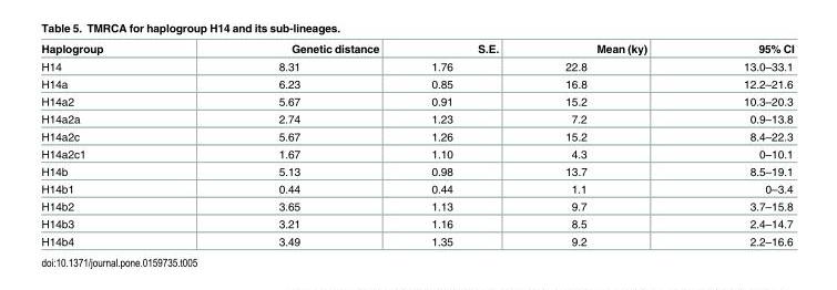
<table><thead><tr><td>Haplogroup</td><td>Genetic distance</td><td>S.E.</td><td>Mean (ky)</td><td>95% CI</td></tr></thead><tbody><tr><td>H14</td><td>8.31</td><td>1.76</td><td>22.8</td><td>13.0–33.1</td></tr><tr><td>H14a</td><td>6.23</td><td>0.85</td><td>16.8</td><td>12.2–21.6</td></tr><tr><td>H14a2</td><td>5.67</td><td>0.91</td><td>15.2</td><td>10.3–20.3</td></tr><tr><td>H14a2a</td><td>2.74</td><td>1.23</td><td>7.2</td><td>0.9–13.8</td></tr><tr><td>H14a2c</td><td>5.67</td><td>1.26</td><td>15.2</td><td>8.4–22.3</td></tr><tr><td>H14a2c1</td><td>1.67</td><td>1.10</td><td>4.3</td><td>0–10.1</td></tr><tr><td>H14b</td><td>5.13</td><td>0.98</td><td>13.7</td><td>8.5–19.1</td></tr><tr><td>H14b1</td><td>0.44</td><td>0.44</td><td>1.1</td><td>0–3.4</td></tr><tr><td>H14b2</td><td>3.65</td><td>1.13</td><td>9.7</td><td>3.7–15.8</td></tr><tr><td>H14b3</td><td>3.21</td><td>1.16</td><td>8.5</td><td>2.4–14.7</td></tr><tr><td>H14b4</td><td>3.49</td><td>1.35</td><td>9.2</td><td>2.2–16.6</td></tr></tbody></table>